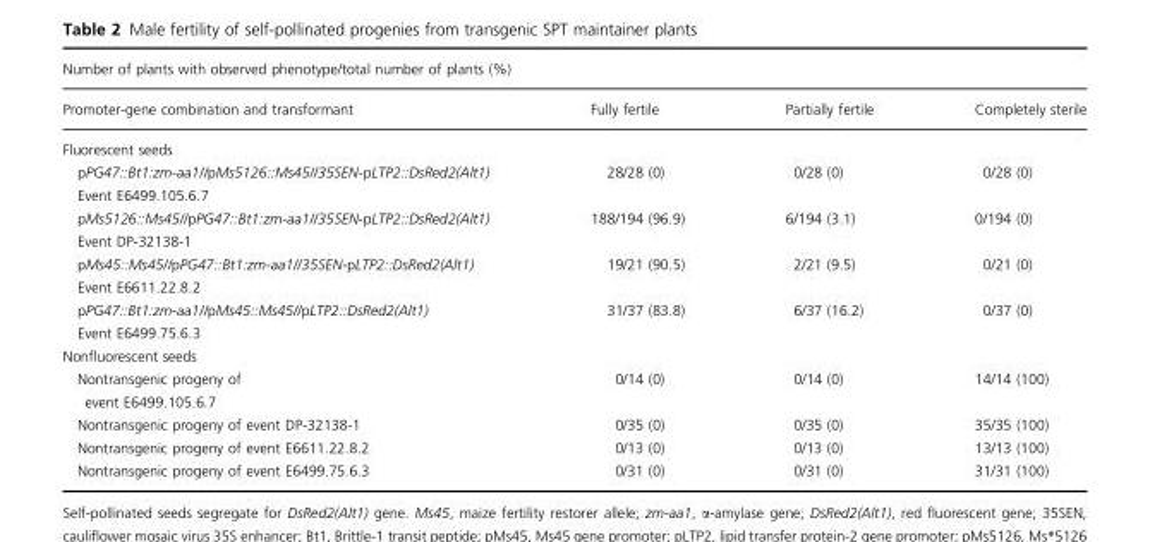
<table><thead><tr><td colspan="4">Number of plants with observed phenotype/total number of plants (%)</td></tr><tr><td>Promoter-gene combination and transformant</td><td>Fully fertile</td><td>Partially fertile</td><td>Completely sterile</td></tr></thead><tbody><tr><td colspan="4">Fluorescent seeds</td></tr><tr><td>pPG47::Bt1:zm-aa1//pMs5126::Ms45//35SEN-pLTP2::DsRed2(Alt1) Event E6499.105.6.7</td><td>28/28 (0)</td><td>0/28 (0)</td><td>0/28 (0)</td></tr><tr><td>pMs5126::Ms45//pPG47::Bt1:zm-aa1//35SEN-pLTP2::DsRed2(Alt1) Event DP-32138-1</td><td>188/194 (96.9)</td><td>6/194 (3.1)</td><td>0/194 (0)</td></tr><tr><td>pMs45::Ms45//pPG47::Bt1:zm-aa1//35SEN-pLTP2::DsRed2(Alt1) Event E6611.22.8.2</td><td>19/21 (90.5)</td><td>2/21 (9.5)</td><td>0/21 (0)</td></tr><tr><td>pPG47::Bt1:zm-aa1//pMs45::Ms45//pLTP2::DsRed2(Alt1) Event E6499.75.6.3</td><td>31/37 (83.8)</td><td>6/37 (16.2)</td><td>0/37 (0)</td></tr><tr><td colspan="4">Nonfluorescent seeds</td></tr><tr><td>Nontransgenic progeny of event E6499.105.6.7</td><td>0/14 (0)</td><td>0/14 (0)</td><td>14/14 (100)</td></tr><tr><td>Nontransgenic progeny of event DP-32138-1</td><td>0/35 (0)</td><td>0/35 (0)</td><td>35/35 (100)</td></tr><tr><td>Nontransgenic progeny of event E6611.22.8.2</td><td>0/13 (0)</td><td>0/13 (0)</td><td>13/13 (100)</td></tr><tr><td>Nontransgenic progeny of event E6499.75.6.3</td><td>0/31 (0)</td><td>0/31 (0)</td><td>31/31 (100)</td></tr></tbody></table>